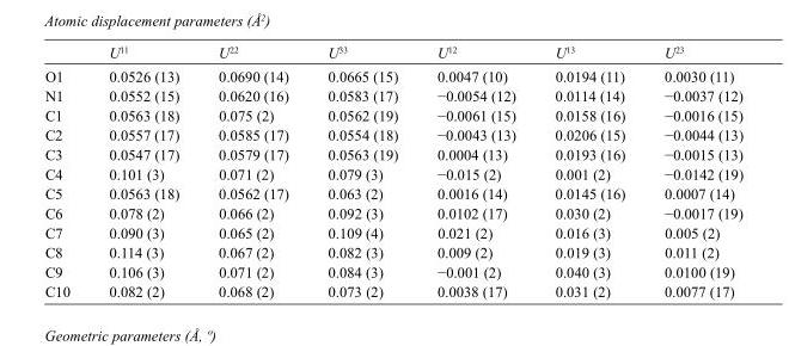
<table><thead><tr><td></td><td>U<sup>11</sup></td><td>U<sup>22</sup></td><td>U<sup>33</sup></td><td>U<sup>12</sup></td><td>U<sup>13</sup></td><td>U<sup>23</sup></td></tr></thead><tbody><tr><td>O1</td><td>0.0526 (13)</td><td>0.0690 (14)</td><td>0.0665 (15)</td><td>0.0047 (10)</td><td>0.0194 (11)</td><td>0.0030 (11)</td></tr><tr><td>N1</td><td>0.0552 (15)</td><td>0.0620 (16)</td><td>0.0583 (17)</td><td>−0.0054 (12)</td><td>0.0114 (14)</td><td>−0.0037 (12)</td></tr><tr><td>C1</td><td>0.0563 (18)</td><td>0.075 (2)</td><td>0.0562 (19)</td><td>−0.0061 (15)</td><td>0.0158 (16)</td><td>−0.0016 (15)</td></tr><tr><td>C2</td><td>0.0557 (17)</td><td>0.0585 (17)</td><td>0.0554 (18)</td><td>−0.0043 (13)</td><td>0.0206 (15)</td><td>−0.0044 (13)</td></tr><tr><td>C3</td><td>0.0547 (17)</td><td>0.0579 (17)</td><td>0.0563 (19)</td><td>0.0004 (13)</td><td>0.0193 (16)</td><td>−0.0015 (13)</td></tr><tr><td>C4</td><td>0.101 (3)</td><td>0.071 (2)</td><td>0.079 (3)</td><td>−0.015 (2)</td><td>0.001 (2)</td><td>−0.0142 (19)</td></tr><tr><td>C5</td><td>0.0563 (18)</td><td>0.0562 (17)</td><td>0.063 (2)</td><td>0.0016 (14)</td><td>0.0145 (16)</td><td>0.0007 (14)</td></tr><tr><td>C6</td><td>0.078 (2)</td><td>0.066 (2)</td><td>0.092 (3)</td><td>0.0102 (17)</td><td>0.030 (2)</td><td>−0.0017 (19)</td></tr><tr><td>C7</td><td>0.090 (3)</td><td>0.065 (2)</td><td>0.109 (4)</td><td>0.021 (2)</td><td>0.016 (3)</td><td>0.005 (2)</td></tr><tr><td>C8</td><td>0.114 (3)</td><td>0.067 (2)</td><td>0.082 (3)</td><td>0.009 (2)</td><td>0.019 (3)</td><td>0.011 (2)</td></tr><tr><td>C9</td><td>0.106 (3)</td><td>0.071 (2)</td><td>0.084 (3)</td><td>−0.001 (2)</td><td>0.040 (3)</td><td>0.0100 (19)</td></tr><tr><td>C10</td><td>0.082 (2)</td><td>0.068 (2)</td><td>0.073 (2)</td><td>0.0038 (17)</td><td>0.031 (2)</td><td>0.0077 (17)</td></tr></tbody></table>